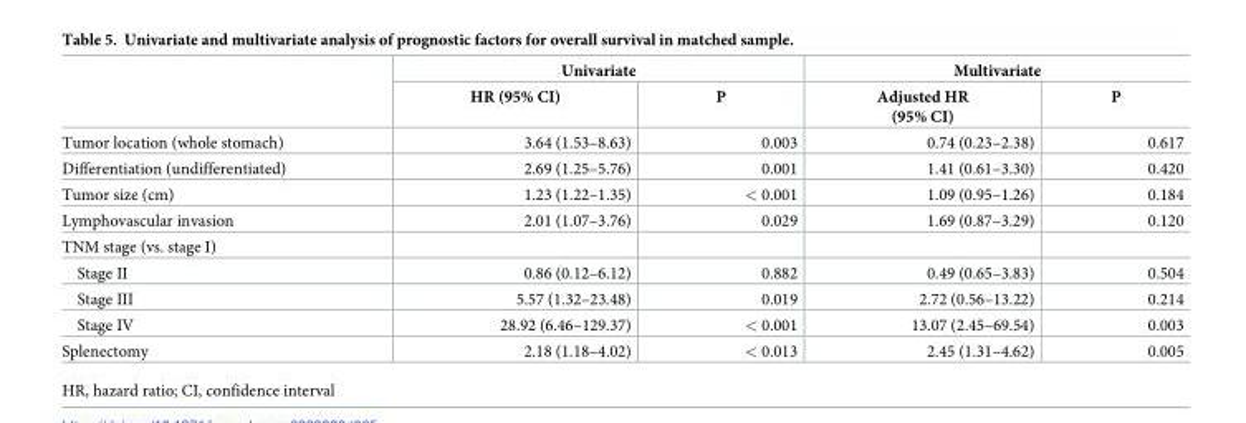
<table><thead><tr><td rowspan="2"></td><td colspan="2">Univariate</td><td colspan="2">Multivariate</td></tr><tr><td>HR (95% CI)</td><td>P</td><td>Adjusted HR (95% CI)</td><td>P</td></tr></thead><tbody><tr><td>Tumor location (whole stomach)</td><td>3.64 (1.53–8.63)</td><td>0.003</td><td>0.74 (0.23–2.38)</td><td>0.617</td></tr><tr><td>Differentiation (undifferentiated)</td><td>2.69 (1.25–5.76)</td><td>0.001</td><td>1.41 (0.61–3.30)</td><td>0.420</td></tr><tr><td>Tumor size (cm)</td><td>1.23 (1.22–1.35)</td><td>&lt; 0.001</td><td>1.09 (0.95–1.26)</td><td>0.184</td></tr><tr><td>Lymphovascular invasion</td><td>2.01 (1.07–3.76)</td><td>0.029</td><td>1.69 (0.87–3.29)</td><td>0.120</td></tr><tr><td colspan="5">TNM stage (vs. stage I)</td></tr><tr><td>Stage II</td><td>0.86 (0.12–6.12)</td><td>0.882</td><td>0.49 (0.65–3.83)</td><td>0.504</td></tr><tr><td>Stage III</td><td>5.57 (1.32–23.48)</td><td>0.019</td><td>2.72 (0.56–13.22)</td><td>0.214</td></tr><tr><td>Stage IV</td><td>28.92 (6.46–129.37)</td><td>&lt; 0.001</td><td>13.07 (2.45–69.54)</td><td>0.003</td></tr><tr><td>Splenectomy</td><td>2.18 (1.18–4.02)</td><td>&lt; 0.013</td><td>2.45 (1.31–4.62)</td><td>0.005</td></tr></tbody></table>